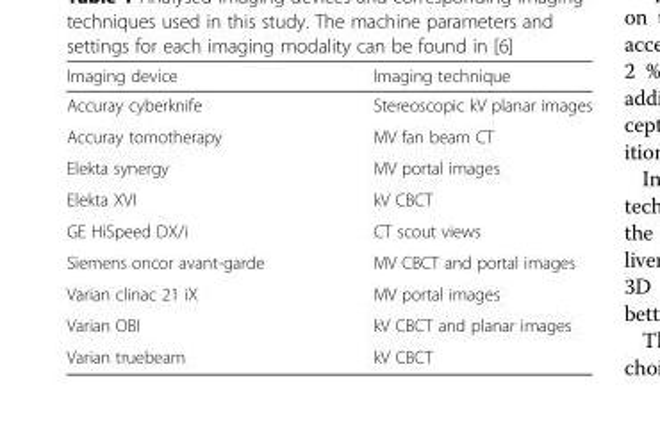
<table><thead><tr><td>Imaging device</td><td>Imaging technique</td></tr></thead><tbody><tr><td>Accuray cyberknife</td><td>Stereoscopic kV planar images</td></tr><tr><td>Accuray tomotherapy</td><td>MV fan beam CT</td></tr><tr><td>Elekta synergy</td><td>MV portal images</td></tr><tr><td>Elekta XVI</td><td>kV CBCT</td></tr><tr><td>GE HiSpeed DX/i</td><td>CT scout views</td></tr><tr><td>Siemens oncor avant-garde</td><td>MV CBCT and portal images</td></tr><tr><td>Varian clinac 21 iX</td><td>MV portal images</td></tr><tr><td>Varian OBI</td><td>kV CBCT and planar images</td></tr><tr><td>Varian truebeam</td><td>kV CBCT</td></tr></tbody></table>